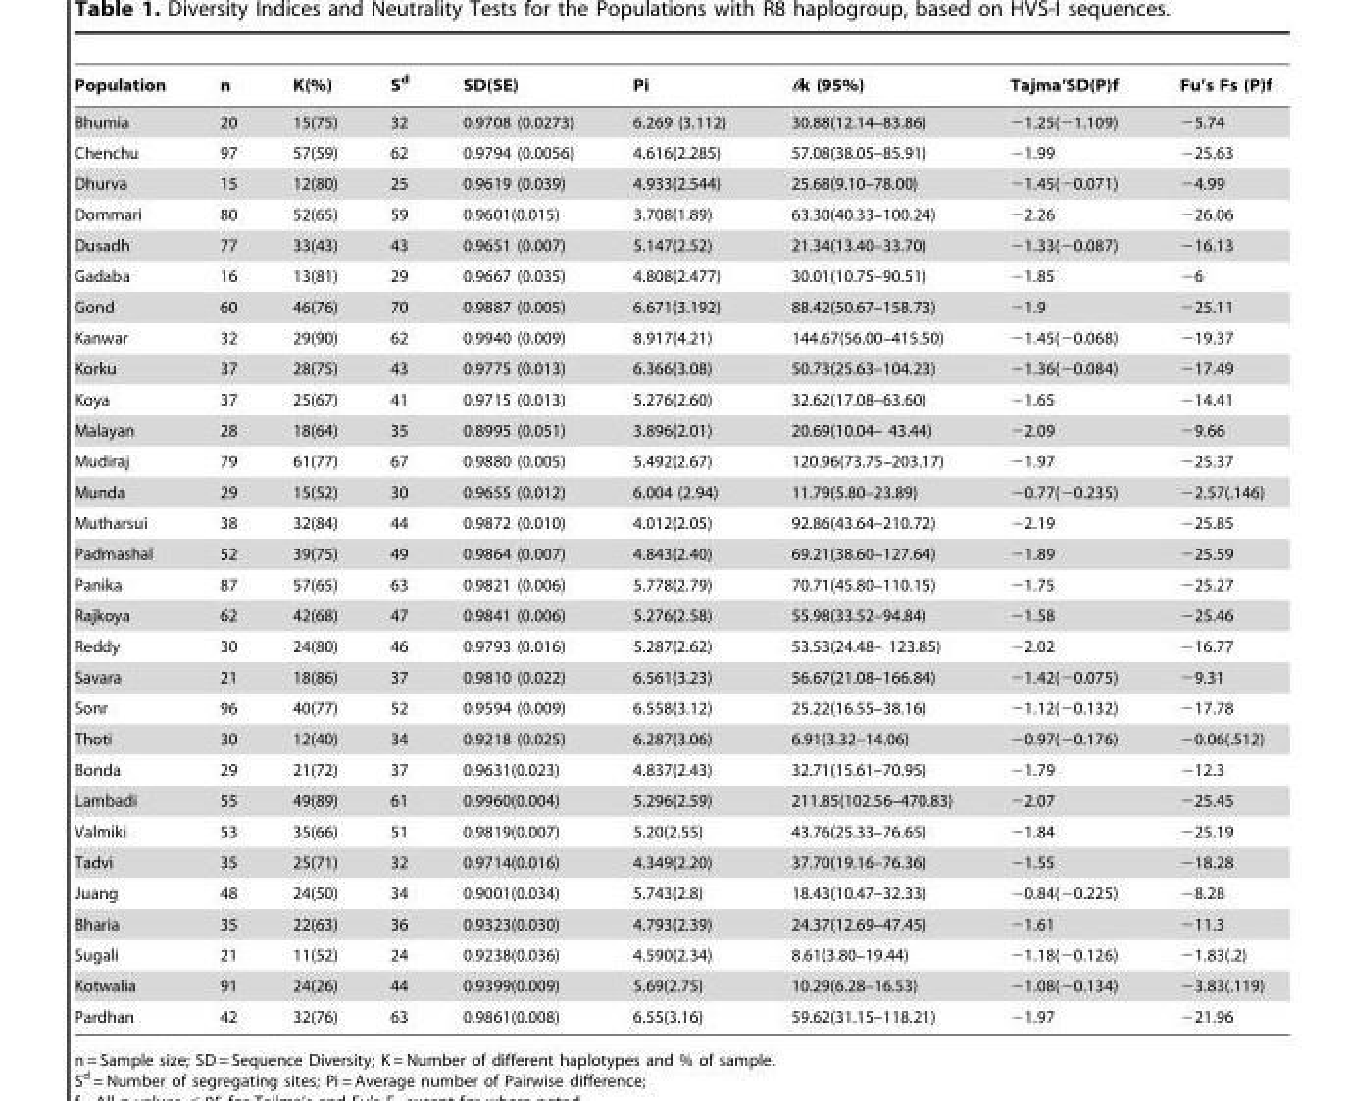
<table><thead><tr><td>Population</td><td>n</td><td>K(%)</td><td>S<sup>d</sup></td><td>SD(SE)</td><td>Pi</td><td>θk (95%)</td><td>Tajma’SD(P)f</td><td>Fu’s Fs (P)f</td></tr></thead><tbody><tr><td>Bhumia</td><td>20</td><td>15(75)</td><td>32</td><td>0.9708 (0.0273)</td><td>6.269 (3.112)</td><td>30.88(12.14–83.86)</td><td>−1.25(−1.109)</td><td>−5.74</td></tr><tr><td>Chenchu</td><td>97</td><td>57(59)</td><td>62</td><td>0.9794 (0.0056)</td><td>4.616(2.285)</td><td>57.08(38.05–85.91)</td><td>−1.99</td><td>−25.63</td></tr><tr><td>Dhurva</td><td>15</td><td>12(80)</td><td>25</td><td>0.9619 (0.039)</td><td>4.933(2.544)</td><td>25.68(9.10–78.00)</td><td>−1.45(−0.071)</td><td>−4.99</td></tr><tr><td>Dommari</td><td>80</td><td>52(65)</td><td>59</td><td>0.9601(0.015)</td><td>3.708(1.89)</td><td>63.30(40.33–100.24)</td><td>−2.26</td><td>−26.06</td></tr><tr><td>Dusadh</td><td>77</td><td>33(43)</td><td>43</td><td>0.9651 (0.007)</td><td>5.147(2.52)</td><td>21.34(13.40–33.70)</td><td>−1.33(−0.087)</td><td>−16.13</td></tr><tr><td>Gadaba</td><td>16</td><td>13(81)</td><td>29</td><td>0.9667 (0.035)</td><td>4.808(2.477)</td><td>30.01(10.75–90.51)</td><td>−1.85</td><td>−6</td></tr><tr><td>Gond</td><td>60</td><td>46(76)</td><td>70</td><td>0.9887 (0.005)</td><td>6.671(3.192)</td><td>88.42(50.67–158.73)</td><td>−1.9</td><td>−25.11</td></tr><tr><td>Kanwar</td><td>32</td><td>29(90)</td><td>62</td><td>0.9940 (0.009)</td><td>8.917(4.21)</td><td>144.67(56.00–415.50)</td><td>−1.45(−0.068)</td><td>−19.37</td></tr><tr><td>Korku</td><td>37</td><td>28(75)</td><td>43</td><td>0.9775 (0.013)</td><td>6.366(3.08)</td><td>50.73(25.63–104.23)</td><td>−1.36(−0.084)</td><td>−17.49</td></tr><tr><td>Koya</td><td>37</td><td>25(67)</td><td>41</td><td>0.9715 (0.013)</td><td>5.276(2.60)</td><td>32.62(17.08–63.60)</td><td>−1.65</td><td>−14.41</td></tr><tr><td>Malayan</td><td>28</td><td>18(64)</td><td>35</td><td>0.8995 (0.051)</td><td>3.896(2.01)</td><td>20.69(10.04– 43.44)</td><td>−2.09</td><td>−9.66</td></tr><tr><td>Mudiraj</td><td>79</td><td>61(77)</td><td>67</td><td>0.9880 (0.005)</td><td>5.492(2.67)</td><td>120.96(73.75–203.17)</td><td>−1.97</td><td>−25.37</td></tr><tr><td>Munda</td><td>29</td><td>15(52)</td><td>30</td><td>0.9655 (0.012)</td><td>6.004 (2.94)</td><td>11.79(5.80–23.89)</td><td>−0.77(−0.235)</td><td>−2.57(.146)</td></tr><tr><td>Mutharsui</td><td>38</td><td>32(84)</td><td>44</td><td>0.9872 (0.010)</td><td>4.012(2.05)</td><td>92.86(43.64–210.72)</td><td>−2.19</td><td>−25.85</td></tr><tr><td>Padmashal</td><td>52</td><td>39(75)</td><td>49</td><td>0.9864 (0.007)</td><td>4.843(2.40)</td><td>69.21(38.60–127.64)</td><td>−1.89</td><td>−25.59</td></tr><tr><td>Panika</td><td>87</td><td>57(65)</td><td>63</td><td>0.9821 (0.006)</td><td>5.778(2.79)</td><td>70.71(45.80–110.15)</td><td>−1.75</td><td>−25.27</td></tr><tr><td>Rajkoya</td><td>62</td><td>42(68)</td><td>47</td><td>0.9841 (0.006)</td><td>5.276(2.58)</td><td>55.98(33.52–94.84)</td><td>−1.58</td><td>−25.46</td></tr><tr><td>Reddy</td><td>30</td><td>24(80)</td><td>46</td><td>0.9793 (0.016)</td><td>5.287(2.62)</td><td>53.53(24.48– 123.85)</td><td>−2.02</td><td>−16.77</td></tr><tr><td>Savara</td><td>21</td><td>18(86)</td><td>37</td><td>0.9810 (0.022)</td><td>6.561(3.23)</td><td>56.67(21.08–166.84)</td><td>−1.42(−0.075)</td><td>−9.31</td></tr><tr><td>Sonr</td><td>96</td><td>40(77)</td><td>52</td><td>0.9594 (0.009)</td><td>6.558(3.12)</td><td>25.22(16.55–38.16)</td><td>−1.12(−0.132)</td><td>−17.78</td></tr><tr><td>Thoti</td><td>30</td><td>12(40)</td><td>34</td><td>0.9218 (0.025)</td><td>6.287(3.06)</td><td>6.91(3.32–14.06)</td><td>−0.97(−0.176)</td><td>−0.06(.512)</td></tr><tr><td>Bonda</td><td>29</td><td>21(72)</td><td>37</td><td>0.9631(0.023)</td><td>4.837(2.43)</td><td>32.71(15.61–70.95)</td><td>−1.79</td><td>−12.3</td></tr><tr><td>Lambadi</td><td>55</td><td>49(89)</td><td>61</td><td>0.9960(0.004)</td><td>5.296(2.59)</td><td>211.85(102.56–470.83)</td><td>−2.07</td><td>−25.45</td></tr><tr><td>Valmiki</td><td>53</td><td>35(66)</td><td>51</td><td>0.9819(0.007)</td><td>5.20(2.55)</td><td>43.76(25.33–76.65)</td><td>−1.84</td><td>−25.19</td></tr><tr><td>Tadvi</td><td>35</td><td>25(71)</td><td>32</td><td>0.9714(0.016)</td><td>4.349(2.20)</td><td>37.70(19.16–76.36)</td><td>−1.55</td><td>−18.28</td></tr><tr><td>Juang</td><td>48</td><td>24(50)</td><td>34</td><td>0.9001(0.034)</td><td>5.743(2.8)</td><td>18.43(10.47–32.33)</td><td>−0.84(−0.225)</td><td>−8.28</td></tr><tr><td>Bharia</td><td>35</td><td>22(63)</td><td>36</td><td>0.9323(0.030)</td><td>4.793(2.39)</td><td>24.37(12.69–47.45)</td><td>−1.61</td><td>−11.3</td></tr><tr><td>Sugali</td><td>21</td><td>11(52)</td><td>24</td><td>0.9238(0.036)</td><td>4.590(2.34)</td><td>8.61(3.80–19.44)</td><td>−1.18(−0.126)</td><td>−1.83(.2)</td></tr><tr><td>Kotwalia</td><td>91</td><td>24(26)</td><td>44</td><td>0.9399(0.009)</td><td>5.69(2.75)</td><td>10.29(6.28–16.53)</td><td>−1.08(−0.134)</td><td>−3.83(.119)</td></tr><tr><td>Pardhan</td><td>42</td><td>32(76)</td><td>63</td><td>0.9861(0.008)</td><td>6.55(3.16)</td><td>59.62(31.15–118.21)</td><td>−1.97</td><td>−21.96</td></tr></tbody></table>